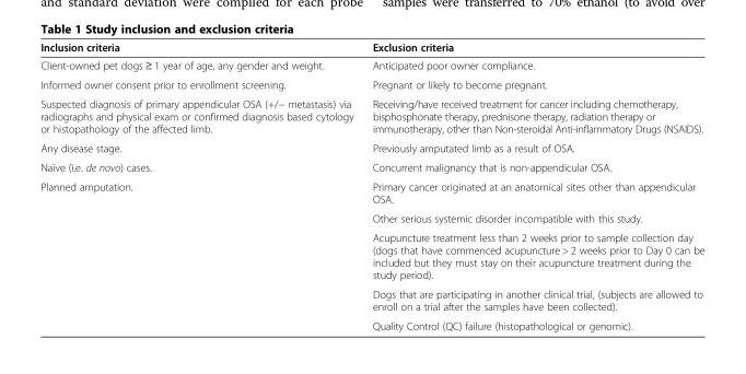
<table><thead><tr><td>Inclusion criteria</td><td>Exclusion criteria</td></tr></thead><tbody><tr><td>Client-owned pet dogs ≥ 1 year of age, any gender and weight.</td><td>Anticipated poor owner compliance.</td></tr><tr><td>Informed owner consent prior to enrollment screening.</td><td>Pregnant or likely to become pregnant.</td></tr><tr><td>Suspected diagnosis of primary appendicular OSA (+/− metastasis) via radiographs and physical exam or confirmed diagnosis based cytology or histopathology of the affected limb.</td><td>Receiving/have received treatment for cancer including chemotherapy, bisphosphonate therapy, prednisone therapy, radiation therapy or immunotherapy, other than Non-steroidal Anti-inflammatory Drugs (NSAIDS).</td></tr><tr><td>Any disease stage.</td><td>Previously amputated limb as a result of OSA.</td></tr><tr><td>Naïve (i.e. de novo) cases.</td><td>Concurrent malignancy that is non-appendicular OSA.</td></tr><tr><td rowspan="5">Planned amputation.</td><td>Primary cancer originated at an anatomical sites other than appendicular OSA.</td></tr><tr><td>Other serious systemic disorder incompatible with this study.</td></tr><tr><td>Acupuncture treatment less than 2 weeks prior to sample collection day (dogs that have commenced acupuncture &gt; 2 weeks prior to Day 0 can be included but they must stay on their acupuncture treatment during the study period).</td></tr><tr><td>Dogs that are participating in another clinical trial, (subjects are allowed to enroll on a trial after the samples have been collected).</td></tr><tr><td>Quality Control (QC) failure (histopathological or genomic).</td></tr></tbody></table>